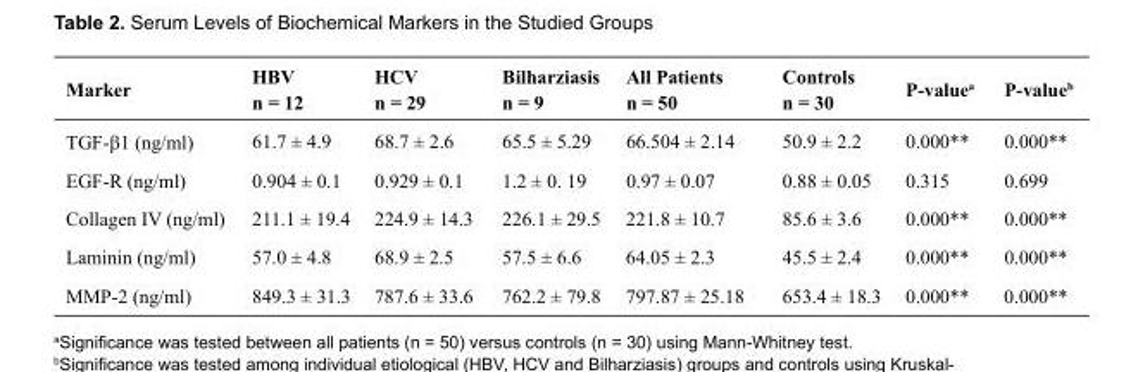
<table><thead><tr><td>Marker</td><td>HBV n = 12</td><td>HCV n = 29</td><td>Bilharziasis n = 9</td><td>All Patients n = 50</td><td>Controls n = 30</td><td>P-value<sup>a</sup></td><td>P-value<sup>b</sup></td></tr></thead><tbody><tr><td>TGF-β1 (ng/ml)</td><td>61.7 ± 4.9</td><td>68.7 ± 2.6</td><td>65.5 ± 5.29</td><td>66.504 ± 2.14</td><td>50.9 ± 2.2</td><td>0.000**</td><td>0.000**</td></tr><tr><td>EGF-R (ng/ml)</td><td>0.904 ± 0.1</td><td>0.929 ± 0.1</td><td>1.2 ± 0. 19</td><td>0.97 ± 0.07</td><td>0.88 ± 0.05</td><td>0.315</td><td>0.699</td></tr><tr><td>Collagen IV (ng/ml)</td><td>211.1 ± 19.4</td><td>224.9 ± 14.3</td><td>226.1 ± 29.5</td><td>221.8 ± 10.7</td><td>85.6 ± 3.6</td><td>0.000**</td><td>0.000**</td></tr><tr><td>Laminin (ng/ml)</td><td>57.0 ± 4.8</td><td>68.9 ± 2.5</td><td>57.5 ± 6.6</td><td>64.05 ± 2.3</td><td>45.5 ± 2.4</td><td>0.000**</td><td>0.000**</td></tr><tr><td>MMP-2 (ng/ml)</td><td>849.3 ± 31.3</td><td>787.6 ± 33.6</td><td>762.2 ± 79.8</td><td>797.87 ± 25.18</td><td>653.4 ± 18.3</td><td>0.000**</td><td>0.000**</td></tr></tbody></table>